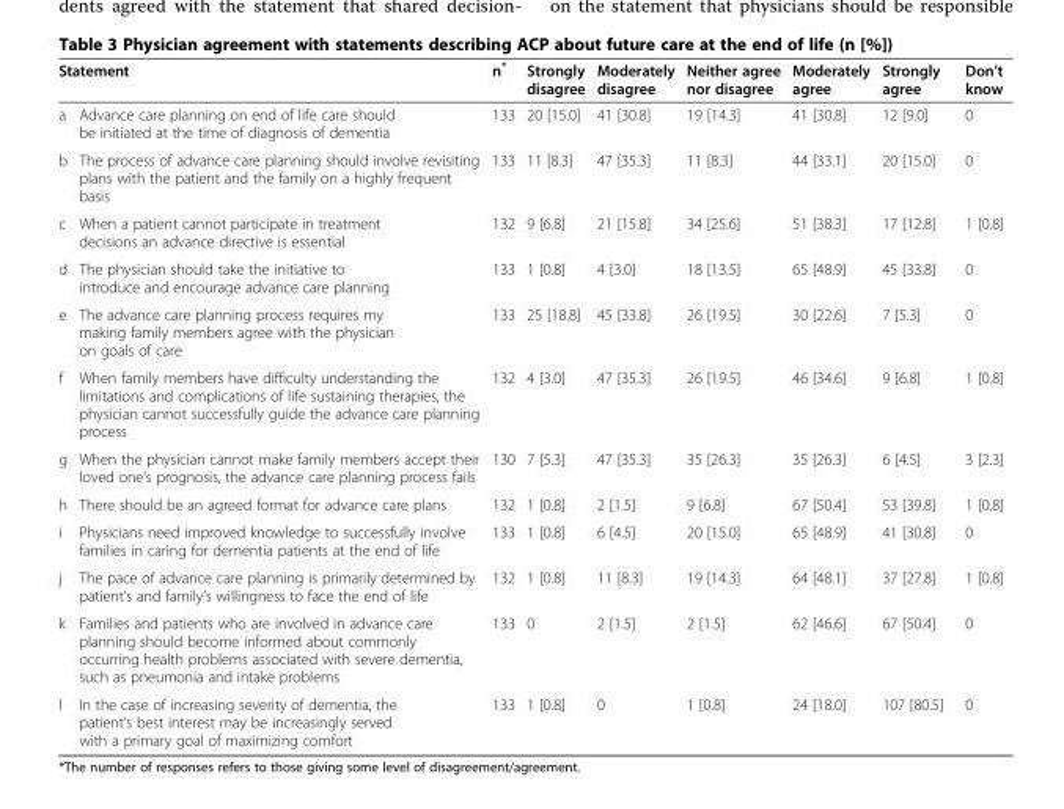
<table><thead><tr><td colspan="2">Statement</td><td rowspan="2">n* 133</td><td rowspan="2">Strongly disagree 20 [15.0]</td><td rowspan="2">Moderately disagree 41 [30.8]</td><td rowspan="2">Neither agree nor disagree 19 [14.3]</td><td rowspan="2">Moderately agree 41 [30.8]</td><td rowspan="2">Strongly agree 12 [9.0]</td><td rowspan="2">Don’t know 0</td></tr><tr><td>a</td><td>Advance care planning on end of life care should be initiated at the time of diagnosis of dementia</td></tr></thead><tbody><tr><td>b</td><td>The process of advance care planning should involve revisiting plans with the patient and the family on a highly frequent basis</td><td>133</td><td>11 [8.3]</td><td>47 [35.3]</td><td>11 [8.3]</td><td>44 [33.1]</td><td>20 [15.0]</td><td>0</td></tr><tr><td>c</td><td>When a patient cannot participate in treatment decisions an advance directive is essential</td><td>132</td><td>9 [6.8]</td><td>21 [15.8]</td><td>34 [25.6]</td><td>51 [38.3]</td><td>17 [12.8]</td><td>1 [0.8]</td></tr><tr><td>d</td><td>The physician should take the initiative to introduce and encourage advance care planning</td><td>133</td><td>1 [0.8]</td><td>4 [3.0]</td><td>18 [13.5]</td><td>65 [48.9]</td><td>45 [33.8]</td><td>0</td></tr><tr><td>e</td><td>The advance care planning process requires my making family members agree with the physician on goals of care</td><td>133</td><td>25 [18.8]</td><td>45 [33.8]</td><td>26 [19.5]</td><td>30 [22.6]</td><td>7 [5.3]</td><td>0</td></tr><tr><td>f</td><td>When family members have difficulty understanding the limitations and complications of life sustaining therapies, the physician cannot successfully guide the advance care planning process</td><td>132</td><td>4 [3.0]</td><td>47 [35.3]</td><td>26 [19.5]</td><td>46 [34.6]</td><td>9 [6.8]</td><td>1 [0.8]</td></tr><tr><td>g</td><td>When the physician cannot make family members accept their loved one’s prognosis, the advance care planning process fails</td><td>130</td><td>7 [5.3]</td><td>47 [35.3]</td><td>35 [26.3]</td><td>35 [26.3]</td><td>6 [4.5]</td><td>3 [2.3]</td></tr><tr><td>h</td><td>There should be an agreed format for advance care plans</td><td>132</td><td>1 [0.8]</td><td>2 [1.5]</td><td>9 [6.8]</td><td>67 [50.4]</td><td>53 [39.8]</td><td>1 [0.8]</td></tr><tr><td>i</td><td>Physicians need improved knowledge to successfully involve families in caring for dementia patients at the end of life</td><td>133</td><td>1 [0.8]</td><td>6 [4.5]</td><td>20 [15.0]</td><td>65 [48.9]</td><td>41 [30.8]</td><td>0</td></tr><tr><td>j</td><td>The pace of advance care planning is primarily determined by patient’s and family’s willingness to face the end of life</td><td>132</td><td>1 [0.8]</td><td>11 [8.3]</td><td>19 [14.3]</td><td>64 [48.1]</td><td>37 [27.8]</td><td>1 [0.8]</td></tr><tr><td>k</td><td>Families and patients who are involved in advance care planning should become informed about commonly occurring health problems associated with severe dementia, such as pneumonia and intake problems</td><td>133</td><td>0</td><td>2 [1.5]</td><td>2 [1.5]</td><td>62 [46.6]</td><td>67 [50.4]</td><td>0</td></tr><tr><td>l</td><td>In the case of increasing severity of dementia, the patient’s best interest may be increasingly served with a primary goal of maximizing comfort</td><td>133</td><td>1 [0.8]</td><td>0</td><td>1 [0.8]</td><td>24 [18.0]</td><td>107 [80.5]</td><td>0</td></tr></tbody></table>